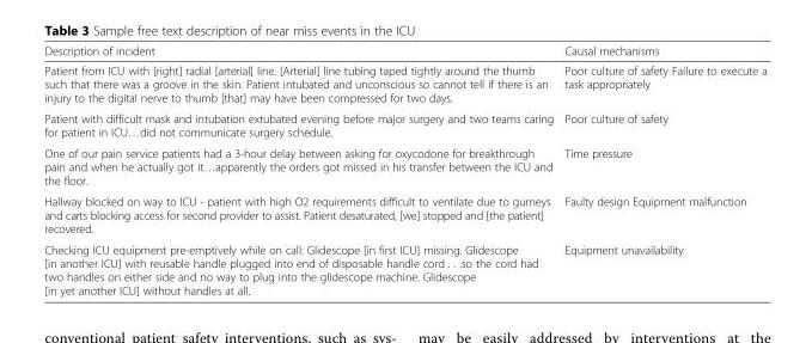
<table><thead><tr><td>Description of incident</td><td>Causal mechanisms</td></tr></thead><tbody><tr><td>Patient from ICU with [right] radial [arterial] line. [Arterial] line tubing taped tightly around the thumb such that there was a groove in the skin. Patient intubated and unconscious so cannot tell if there is an injury to the digital nerve to thumb [that] may have been compressed for two days.</td><td>Poor culture of safety Failure to execute a task appropriately</td></tr><tr><td>Patient with difficult mask and intubation extubated evening before major surgery and two teams caring for patient in ICU…did not communicate surgery schedule.</td><td>Poor culture of safety</td></tr><tr><td>One of our pain service patients had a 3-hour delay between asking for oxycodone for breakthrough pain and when he actually got it…apparently the orders got missed in his transfer between the ICU and the floor.</td><td>Time pressure</td></tr><tr><td>Hallway blocked on way to ICU - patient with high O2 requirements difficult to ventilate due to gurneys and carts blocking access for second provider to assist. Patient desaturated, [we] stopped and [the patient] recovered.</td><td>Faulty design Equipment malfunction</td></tr><tr><td>Checking ICU equipment pre-emptively while on call: Glidescope [in first ICU] missing. Glidescope [in another ICU] with reusable handle plugged into end of disposable handle cord . . .so the cord had two handles on either side and no way to plug into the glidescope machine. Glidescope [in yet another ICU] without handles at all.</td><td>Equipment unavailability</td></tr></tbody></table>